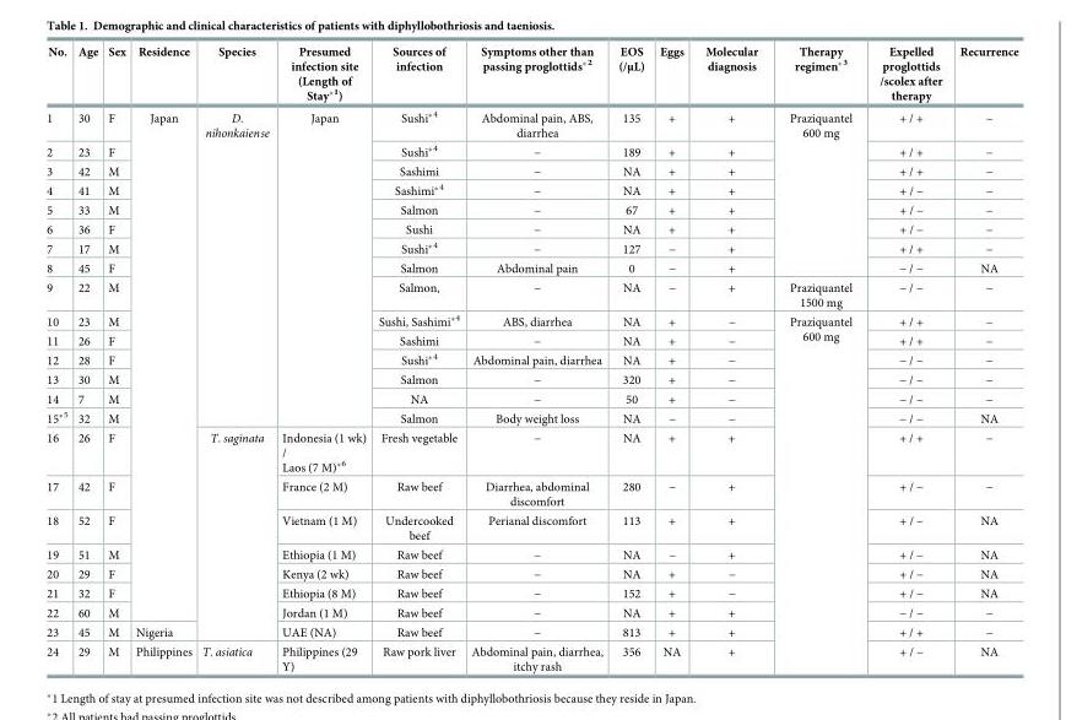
<table><thead><tr><td>No.</td><td>Age</td><td>Sex</td><td>Residence</td><td>Species</td><td>Presumed infection site (Length of Stay*<sup>1</sup>)</td><td>Sources of infection</td><td>Symptoms other than passing proglottids*<sup>2</sup></td><td>EOS (/μL)</td><td>Eggs</td><td>Molecular diagnosis</td><td>Therapy regimen*<sup>3</sup></td><td>Expelled proglottids /scolex after therapy</td><td>Recurrence</td></tr></thead><tbody><tr><td>1</td><td>30</td><td>F</td><td rowspan="22">Japan</td><td rowspan="15">D. nihonkaiense</td><td rowspan="15">Japan</td><td>Sushi*<sup>4</sup></td><td>Abdominal pain, ABS, diarrhea</td><td>135</td><td>+</td><td>+</td><td rowspan="8">Praziquantel 600 mg</td><td>+ / +</td><td>−</td></tr><tr><td>2</td><td>23</td><td>F</td><td>Sushi*<sup>4</sup></td><td>−</td><td>189</td><td>+</td><td>+</td><td>+ / +</td><td>−</td></tr><tr><td>3</td><td>42</td><td>M</td><td>Sashimi</td><td>−</td><td>NA</td><td>+</td><td>+</td><td>+ / +</td><td>−</td></tr><tr><td>4</td><td>41</td><td>M</td><td>Sashimi*<sup>4</sup></td><td>−</td><td>NA</td><td>+</td><td>+</td><td>+ / −</td><td>−</td></tr><tr><td>5</td><td>33</td><td>M</td><td>Salmon</td><td>−</td><td>67</td><td>+</td><td>+</td><td>+ / −</td><td>−</td></tr><tr><td>6</td><td>36</td><td>F</td><td>Sushi</td><td>−</td><td>NA</td><td>+</td><td>+</td><td>+ / −</td><td>−</td></tr><tr><td>7</td><td>17</td><td>M</td><td>Sushi*<sup>4</sup></td><td>−</td><td>127</td><td>−</td><td>+</td><td>+ / +</td><td>−</td></tr><tr><td>8</td><td>45</td><td>F</td><td>Salmon</td><td>Abdominal pain</td><td>0</td><td>−</td><td>+</td><td>− / −</td><td>NA</td></tr><tr><td>9</td><td>22</td><td>M</td><td>Salmon,</td><td>−</td><td>NA</td><td>−</td><td>+</td><td>Praziquantel 1500 mg</td><td>− / −</td><td>−</td></tr><tr><td>10</td><td>23</td><td>M</td><td>Sushi, Sashimi*<sup>4</sup></td><td>ABS, diarrhea</td><td>NA</td><td>+</td><td>−</td><td rowspan="15">Praziquantel 600 mg</td><td>+ / +</td><td>−</td></tr><tr><td>11</td><td>26</td><td>F</td><td>Sashimi</td><td>−</td><td>NA</td><td>+</td><td>−</td><td>+ / +</td><td>−</td></tr><tr><td>12</td><td>28</td><td>F</td><td>Sushi*<sup>4</sup></td><td>Abdominal pain, diarrhea</td><td>NA</td><td>+</td><td>−</td><td>− / −</td><td>−</td></tr><tr><td>13</td><td>30</td><td>M</td><td>Salmon</td><td>−</td><td>320</td><td>+</td><td>−</td><td>− / −</td><td>−</td></tr><tr><td>14</td><td>7</td><td>M</td><td>NA</td><td>−</td><td>50</td><td>+</td><td>−</td><td>− / −</td><td>−</td></tr><tr><td>15*<sup>5</sup></td><td>32</td><td>M</td><td>Salmon</td><td>Body weight loss</td><td>NA</td><td>−</td><td>−</td><td>− / −</td><td>NA</td></tr><tr><td>16</td><td>26</td><td>F</td><td rowspan="8">T. saginata</td><td>Indonesia (1 wk) / Laos (7 M)*<sup>6</sup></td><td>Fresh vegetable</td><td>−</td><td>NA</td><td>+</td><td>+</td><td>+ / +</td><td>−</td></tr><tr><td>17</td><td>42</td><td>F</td><td>France (2 M)</td><td>Raw beef</td><td>Diarrhea, abdominal discomfort</td><td>280</td><td>−</td><td>+</td><td>+ / −</td><td>−</td></tr><tr><td>18</td><td>52</td><td>F</td><td>Vietnam (1 M)</td><td>Undercooked beef</td><td>Perianal discomfort</td><td>113</td><td>+</td><td>+</td><td>+ / −</td><td>NA</td></tr><tr><td>19</td><td>51</td><td>M</td><td>Ethiopia (1 M)</td><td>Raw beef</td><td>−</td><td>NA</td><td>−</td><td>+</td><td>+ / −</td><td>NA</td></tr><tr><td>20</td><td>29</td><td>F</td><td>Kenya (2 wk)</td><td>Raw beef</td><td>−</td><td>NA</td><td>+</td><td>−</td><td>+ / −</td><td>NA</td></tr><tr><td>21</td><td>32</td><td>F</td><td>Ethiopia (8 M)</td><td>Raw beef</td><td>−</td><td>152</td><td>+</td><td>−</td><td>+ / −</td><td>NA</td></tr><tr><td>22</td><td>60</td><td>M</td><td>Jordan (1 M)</td><td>Raw beef</td><td>−</td><td>NA</td><td>+</td><td>+</td><td>− / −</td><td>−</td></tr><tr><td>23</td><td>45</td><td>M</td><td>Nigeria</td><td>UAE (NA)</td><td>Raw beef</td><td>−</td><td>813</td><td>+</td><td>+</td><td>+ / +</td><td>−</td></tr><tr><td>24</td><td>29</td><td>M</td><td>Philippines</td><td>T. asiatica</td><td>Philippines (29 Y)</td><td>Raw pork liver</td><td>Abdominal pain, diarrhea, itchy rash</td><td>356</td><td>NA</td><td>+</td><td>+ / −</td><td>NA</td></tr></tbody></table>